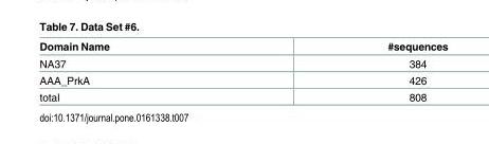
<table><thead><tr><td>Domain Name</td><td>#sequences</td></tr></thead><tbody><tr><td>NA37</td><td>384</td></tr><tr><td>AAA_PrkA</td><td>426</td></tr><tr><td>total</td><td>808</td></tr></tbody></table>